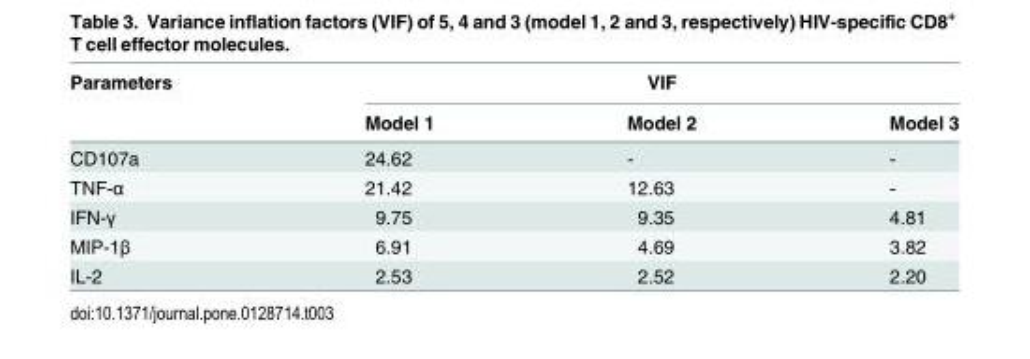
<table><thead><tr><td rowspan="2">Parameters</td><td colspan="3">VIF</td></tr><tr><td>Model 1</td><td>Model 2</td><td>Model 3</td></tr></thead><tbody><tr><td>CD107a</td><td>24.62</td><td>-</td><td>-</td></tr><tr><td>TNF-α</td><td>21.42</td><td>12.63</td><td>-</td></tr><tr><td>IFN-γ</td><td>9.75</td><td>9.35</td><td>4.81</td></tr><tr><td>MIP-1β</td><td>6.91</td><td>4.69</td><td>3.82</td></tr><tr><td>IL-2</td><td>2.53</td><td>2.52</td><td>2.20</td></tr></tbody></table>